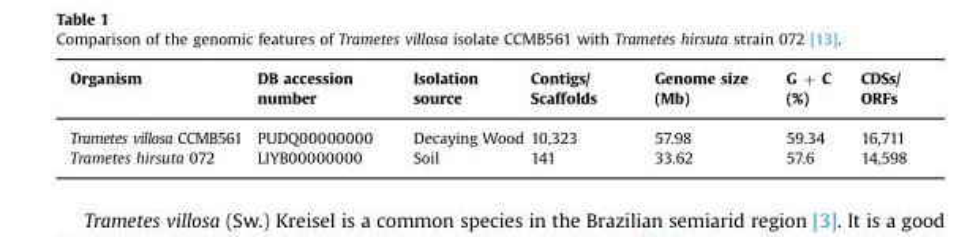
<table><thead><tr><td>Organism</td><td>DB accession number</td><td>Isolation source</td><td>Contigs/ Scaffolds</td><td>Genome size (Mb)</td><td>G + C (%)</td><td>CDSs/ ORFs</td></tr></thead><tbody><tr><td>Trametes villosa CCMB561</td><td>PUDQ00000000</td><td>Decaying Wood</td><td>10,323</td><td>57.98</td><td>59.34</td><td>16,711</td></tr><tr><td>Trametes hirsuta 072</td><td>LIYB00000000</td><td>Soil</td><td>141</td><td>33.62</td><td>57.6</td><td>14,598</td></tr></tbody></table>